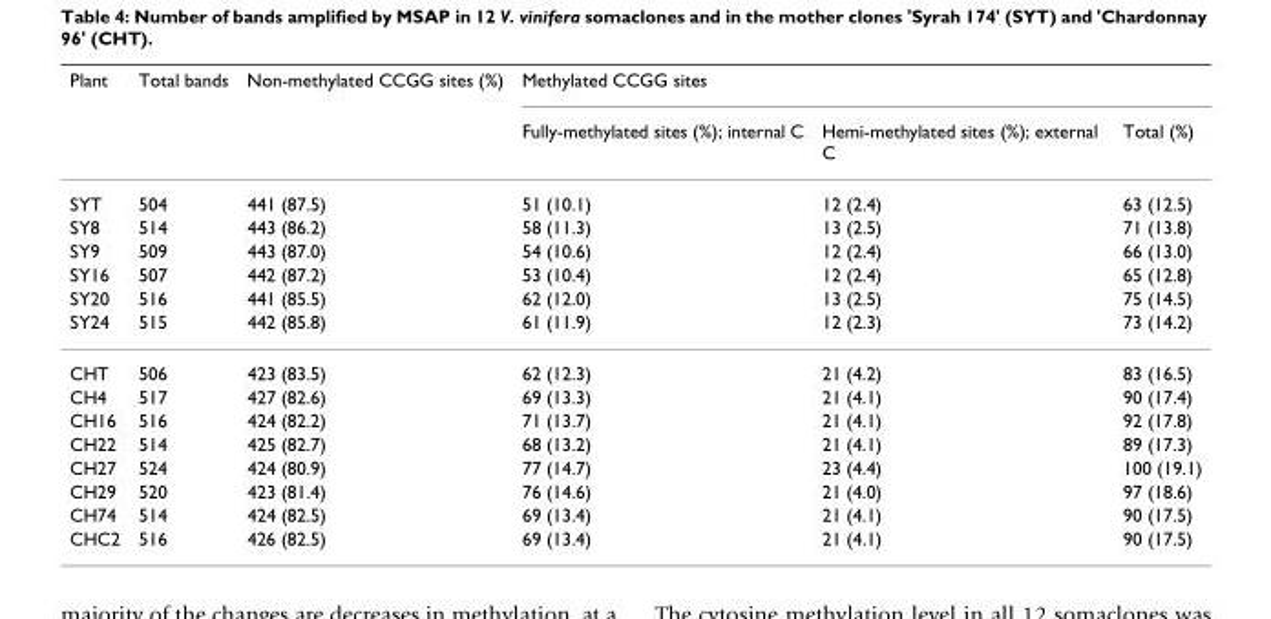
<table><thead><tr><td rowspan="2">Plant</td><td rowspan="2">Total bands</td><td rowspan="2">Non-methylated CCGG sites (%)</td><td rowspan="2">Methylated CCGG sites Fully-methylated sites (%); internal C</td><td rowspan="2">Hemi-methylated sites (%); external C</td><td rowspan="2">Total (%)</td></tr><tr></tr></thead><tbody><tr><td>SYT</td><td>504</td><td>441 (87.5)</td><td>51 (10.1)</td><td>12 (2.4)</td><td>63 (12.5)</td></tr><tr><td>SY8</td><td>514</td><td>443 (86.2)</td><td>58 (11.3)</td><td>13 (2.5)</td><td>71 (13.8)</td></tr><tr><td>SY9</td><td>509</td><td>443 (87.0)</td><td>54 (10.6)</td><td>12 (2.4)</td><td>66 (13.0)</td></tr><tr><td>SY16</td><td>507</td><td>442 (87.2)</td><td>53 (10.4)</td><td>12 (2.4)</td><td>65 (12.8)</td></tr><tr><td>SY20</td><td>516</td><td>441 (85.5)</td><td>62 (12.0)</td><td>13 (2.5)</td><td>75 (14.5)</td></tr><tr><td>SY24</td><td>515</td><td>442 (85.8)</td><td>61 (11.9)</td><td>12 (2.3)</td><td>73 (14.2)</td></tr><tr><td>CHT</td><td>506</td><td>423 (83.5)</td><td>62 (12.3)</td><td>21 (4.2)</td><td>83 (16.5)</td></tr><tr><td>CH4</td><td>517</td><td>427 (82.6)</td><td>69 (13.3)</td><td>21 (4.1)</td><td>90 (17.4)</td></tr><tr><td>CH16</td><td>516</td><td>424 (82.2)</td><td>71 (13.7)</td><td>21 (4.1)</td><td>92 (17.8)</td></tr><tr><td>CH22</td><td>514</td><td>425 (82.7)</td><td>68 (13.2)</td><td>21 (4.1)</td><td>89 (17.3)</td></tr><tr><td>CH27</td><td>524</td><td>424 (80.9)</td><td>77 (14.7)</td><td>23 (4.4)</td><td>100 (19.1)</td></tr><tr><td>CH29</td><td>520</td><td>423 (81.4)</td><td>76 (14.6)</td><td>21 (4.0)</td><td>97 (18.6)</td></tr><tr><td>CH74</td><td>514</td><td>424 (82.5)</td><td>69 (13.4)</td><td>21 (4.1)</td><td>90 (17.5)</td></tr><tr><td>CHC2</td><td>516</td><td>426 (82.5)</td><td>69 (13.4)</td><td>21 (4.1)</td><td>90 (17.5)</td></tr></tbody></table>